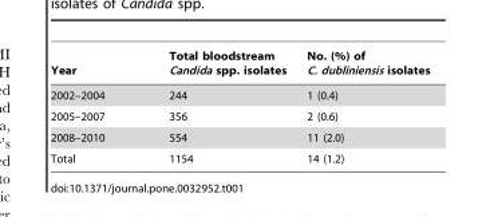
<table><thead><tr><td>Year</td><td>Total bloodstream Candida spp. isolates</td><td>No. (%) of C. dubliniensis isolates</td></tr></thead><tbody><tr><td>2002–2004</td><td>244</td><td>1 (0.4)</td></tr><tr><td>2005–2007</td><td>356</td><td>2 (0.6)</td></tr><tr><td>2008–2010</td><td>554</td><td>11 (2.0)</td></tr><tr><td>Total</td><td>1154</td><td>14 (1.2)</td></tr></tbody></table>